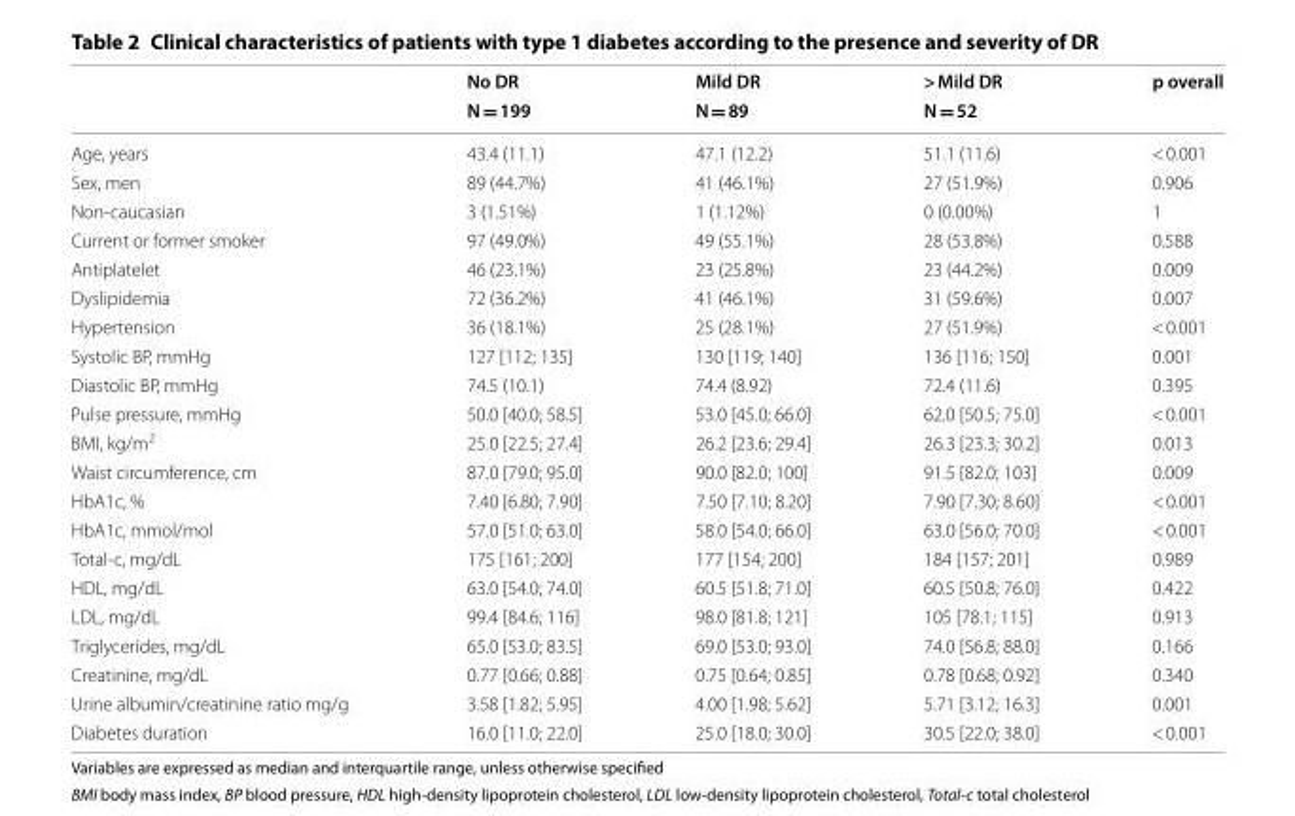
<table><thead><tr><td rowspan="2"></td><td rowspan="2">No DR N = 199</td><td rowspan="2">Mild DR N = 89</td><td rowspan="2">&gt; Mild DR N = 52</td><td rowspan="2">p overall</td></tr><tr></tr></thead><tbody><tr><td>Age, years</td><td>43.4 (11.1)</td><td>47.1 (12.2)</td><td>51.1 (11.6)</td><td>&lt; 0.001</td></tr><tr><td>Sex, men</td><td>89 (44.7%)</td><td>41 (46.1%)</td><td>27 (51.9%)</td><td>0.906</td></tr><tr><td>Non‑caucasian</td><td>3 (1.51%)</td><td>1 (1.12%)</td><td>0 (0.00%)</td><td>1</td></tr><tr><td>Current or former smoker</td><td>97 (49.0%)</td><td>49 (55.1%)</td><td>28 (53.8%)</td><td>0.588</td></tr><tr><td>Antiplatelet</td><td>46 (23.1%)</td><td>23 (25.8%)</td><td>23 (44.2%)</td><td>0.009</td></tr><tr><td>Dyslipidemia</td><td>72 (36.2%)</td><td>41 (46.1%)</td><td>31 (59.6%)</td><td>0.007</td></tr><tr><td>Hypertension</td><td>36 (18.1%)</td><td>25 (28.1%)</td><td>27 (51.9%)</td><td>&lt; 0.001</td></tr><tr><td>Systolic BP, mmHg</td><td>127 [112; 135]</td><td>130 [119; 140]</td><td>136 [116; 150]</td><td>0.001</td></tr><tr><td>Diastolic BP, mmHg</td><td>74.5 (10.1)</td><td>74.4 (8.92)</td><td>72.4 (11.6)</td><td>0.395</td></tr><tr><td>Pulse pressure, mmHg</td><td>50.0 [40.0; 58.5]</td><td>53.0 [45.0; 66.0]</td><td>62.0 [50.5; 75.0]</td><td>&lt; 0.001</td></tr><tr><td>BMI, kg/m<sup>2</sup></td><td>25.0 [22.5; 27.4]</td><td>26.2 [23.6; 29.4]</td><td>26.3 [23.3; 30.2]</td><td>0.013</td></tr><tr><td>Waist circumference, cm</td><td>87.0 [79.0; 95.0]</td><td>90.0 [82.0; 100]</td><td>91.5 [82.0; 103]</td><td>0.009</td></tr><tr><td>HbA1c, %</td><td>7.40 [6.80; 7.90]</td><td>7.50 [7.10; 8.20]</td><td>7.90 [7.30; 8.60]</td><td>&lt; 0.001</td></tr><tr><td>HbA1c, mmol/mol</td><td>57.0 [51.0; 63.0]</td><td>58.0 [54.0; 66.0]</td><td>63.0 [56.0; 70.0]</td><td>&lt; 0.001</td></tr><tr><td>Total‑c, mg/dL</td><td>175 [161; 200]</td><td>177 [154; 200]</td><td>184 [157; 201]</td><td>0.989</td></tr><tr><td>HDL, mg/dL</td><td>63.0 [54.0; 74.0]</td><td>60.5 [51.8; 71.0]</td><td>60.5 [50.8; 76.0]</td><td>0.422</td></tr><tr><td>LDL, mg/dL</td><td>99.4 [84.6; 116]</td><td>98.0 [81.8; 121]</td><td>105 [78.1; 115]</td><td>0.913</td></tr><tr><td>Triglycerides, mg/dL</td><td>65.0 [53.0; 83.5]</td><td>69.0 [53.0; 93.0]</td><td>74.0 [56.8; 88.0]</td><td>0.166</td></tr><tr><td>Creatinine, mg/dL</td><td>0.77 [0.66; 0.88]</td><td>0.75 [0.64; 0.85]</td><td>0.78 [0.68; 0.92]</td><td>0.340</td></tr><tr><td>Urine albumin/creatinine ratio mg/g</td><td>3.58 [1.82; 5.95]</td><td>4.00 [1.98; 5.62]</td><td>5.71 [3.12; 16.3]</td><td>0.001</td></tr><tr><td>Diabetes duration</td><td>16.0 [11.0; 22.0]</td><td>25.0 [18.0; 30.0]</td><td>30.5 [22.0; 38.0]</td><td>&lt; 0.001</td></tr></tbody></table>